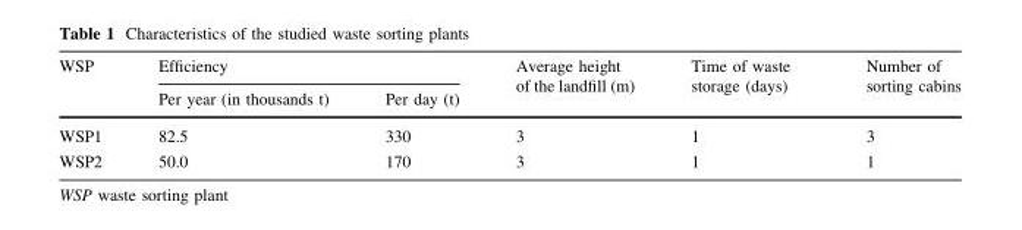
<table><thead><tr><td rowspan="2">WSP</td><td colspan="2">Efficiency</td><td rowspan="2">Average height of the landfill (m)</td><td rowspan="2">Time of waste storage (days)</td><td rowspan="2">Number of sorting cabins</td></tr><tr><td>Per year (in thousands t)</td><td>Per day (t)</td></tr></thead><tbody><tr><td>WSP1</td><td>82.5</td><td>330</td><td>3</td><td>1</td><td>3</td></tr><tr><td>WSP2</td><td>50.0</td><td>170</td><td>3</td><td>1</td><td>1</td></tr></tbody></table>